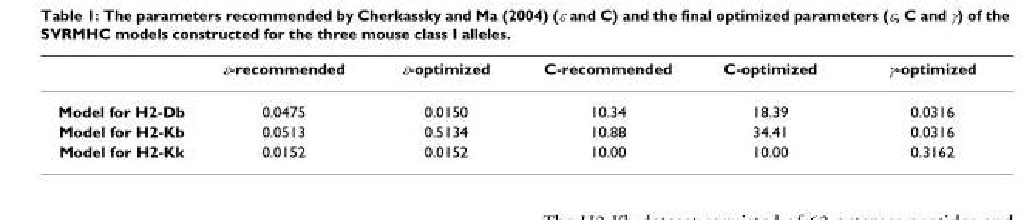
<table><thead><tr><td></td><td>ε-recommended</td><td>ε-optimized</td><td>C-recommended</td><td>C-optimized</td><td>γ-optimized</td></tr></thead><tbody><tr><td>Model for H2-Db</td><td>0.0475</td><td>0.0150</td><td>10.34</td><td>18.39</td><td>0.0316</td></tr><tr><td>Model for H2-Kb</td><td>0.0513</td><td>0.5134</td><td>10.88</td><td>34.41</td><td>0.0316</td></tr><tr><td>Model for H2-Kk</td><td>0.0152</td><td>0.0152</td><td>10.00</td><td>10.00</td><td>0.3162</td></tr></tbody></table>